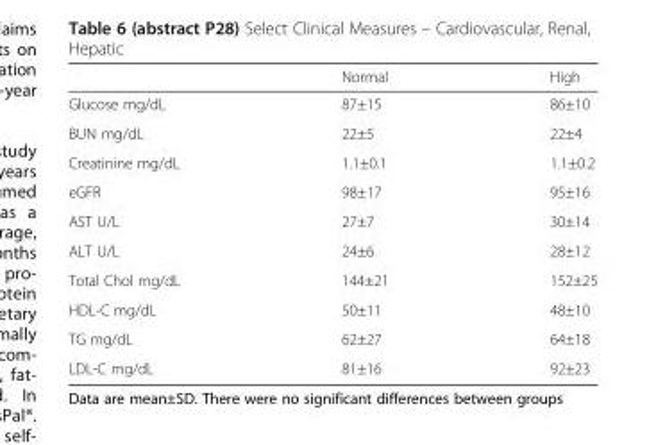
<table><thead><tr><td></td><td>Normal</td><td>High</td></tr></thead><tbody><tr><td>Glucose mg/dL</td><td>87±15</td><td>86±10</td></tr><tr><td>BUN mg/dL</td><td>22±5</td><td>22±4</td></tr><tr><td>Creatinine mg/dL</td><td>1.1±0.1</td><td>1.1±0.2</td></tr><tr><td>eGFR</td><td>98±17</td><td>95±16</td></tr><tr><td>AST U/L</td><td>27±7</td><td>30±14</td></tr><tr><td>ALT U/L</td><td>24±6</td><td>28±12</td></tr><tr><td>Total Chol mg/dL</td><td>144±21</td><td>152±25</td></tr><tr><td>HDL-C mg/dL</td><td>50±11</td><td>48±10</td></tr><tr><td>TG mg/dL</td><td>62±27</td><td>64±18</td></tr><tr><td>LDL-C mg/dL</td><td>81±16</td><td>92±23</td></tr></tbody></table>